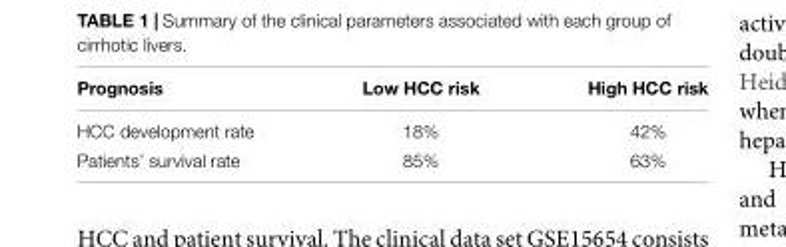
<table><thead><tr><td>Prognosis</td><td>Low HCC risk</td><td>High HCC risk</td></tr></thead><tbody><tr><td>HCC development rate</td><td>18%</td><td>42%</td></tr><tr><td>Patients’ survival rate</td><td>85%</td><td>63%</td></tr></tbody></table>